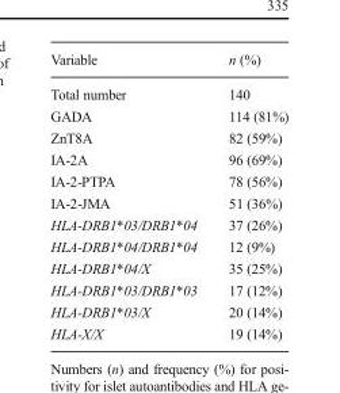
<table><thead><tr><td>Variable</td><td>n (%)</td></tr></thead><tbody><tr><td>Total number</td><td>140</td></tr><tr><td>GADA</td><td>114 (81%)</td></tr><tr><td>ZnT8A</td><td>82 (59%)</td></tr><tr><td>IA-2A</td><td>96 (69%)</td></tr><tr><td>IA-2-PTPA</td><td>78 (56%)</td></tr><tr><td>IA-2-JMA</td><td>51 (36%)</td></tr><tr><td>HLA-DRB1*03/DRB1*04</td><td>37 (26%)</td></tr><tr><td>HLA-DRB1*04/DRB1*04</td><td>12 (9%)</td></tr><tr><td>HLA-DRB1*04/X</td><td>35 (25%)</td></tr><tr><td>HLA-DRB1*03/DRB1*03</td><td>17 (12%)</td></tr><tr><td>HLA-DRB1*03/X</td><td>20 (14%)</td></tr><tr><td>HLA-X/X</td><td>19 (14%)</td></tr></tbody></table>